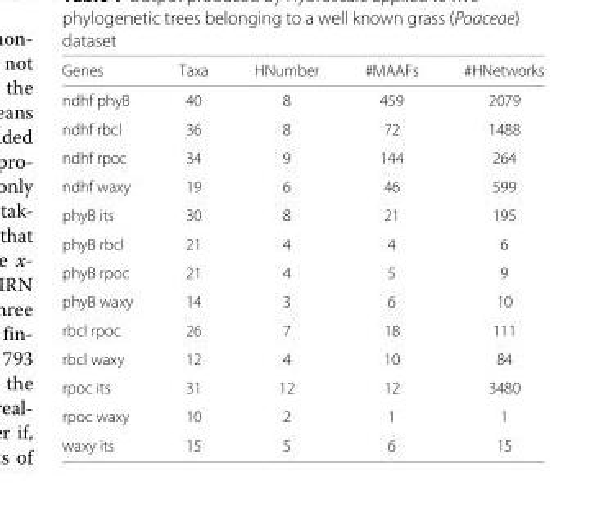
<table><thead><tr><td>Genes</td><td>Taxa</td><td>HNumber</td><td>#MAAFs</td><td>#HNetworks</td></tr></thead><tbody><tr><td>ndhf phyB</td><td>40</td><td>8</td><td>459</td><td>2079</td></tr><tr><td>ndhf rbcl</td><td>36</td><td>8</td><td>72</td><td>1488</td></tr><tr><td>ndhf rpoc</td><td>34</td><td>9</td><td>144</td><td>264</td></tr><tr><td>ndhf waxy</td><td>19</td><td>6</td><td>46</td><td>599</td></tr><tr><td>phyB its</td><td>30</td><td>8</td><td>21</td><td>195</td></tr><tr><td>phyB rbcl</td><td>21</td><td>4</td><td>4</td><td>6</td></tr><tr><td>phyB rpoc</td><td>21</td><td>4</td><td>5</td><td>9</td></tr><tr><td>phyB waxy</td><td>14</td><td>3</td><td>6</td><td>10</td></tr><tr><td>rbcl rpoc</td><td>26</td><td>7</td><td>18</td><td>111</td></tr><tr><td>rbcl waxy</td><td>12</td><td>4</td><td>10</td><td>84</td></tr><tr><td>rpoc its</td><td>31</td><td>12</td><td>12</td><td>3480</td></tr><tr><td>rpoc waxy</td><td>10</td><td>2</td><td>1</td><td>1</td></tr><tr><td>waxy its</td><td>15</td><td>5</td><td>6</td><td>15</td></tr></tbody></table>